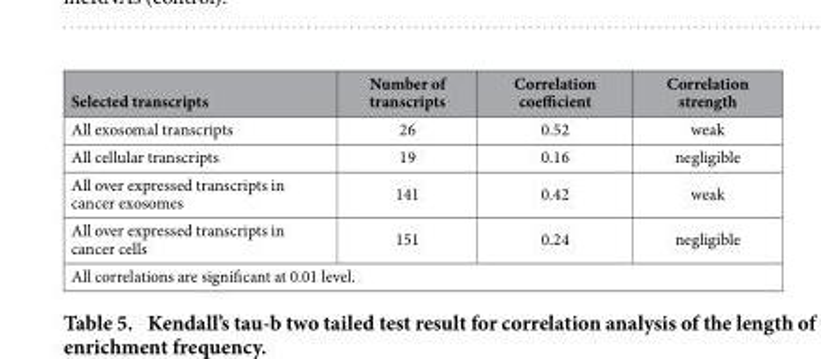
<table><thead><tr><td>Selected transcripts</td><td>Number of transcripts</td><td>Correlation coefficient</td><td>Correlation strength</td></tr></thead><tbody><tr><td>All exosomal transcripts</td><td>26</td><td>0.52</td><td>weak</td></tr><tr><td>All cellular transcripts</td><td>19</td><td>0.16</td><td>negligible</td></tr><tr><td>All over expressed transcripts in cancer exosomes</td><td>141</td><td>0.42</td><td>weak</td></tr><tr><td>All over expressed transcripts in cancer cells</td><td>151</td><td>0.24</td><td>negligible</td></tr><tr><td colspan="4">All correlations are significant at 0.01 level.</td></tr></tbody></table>